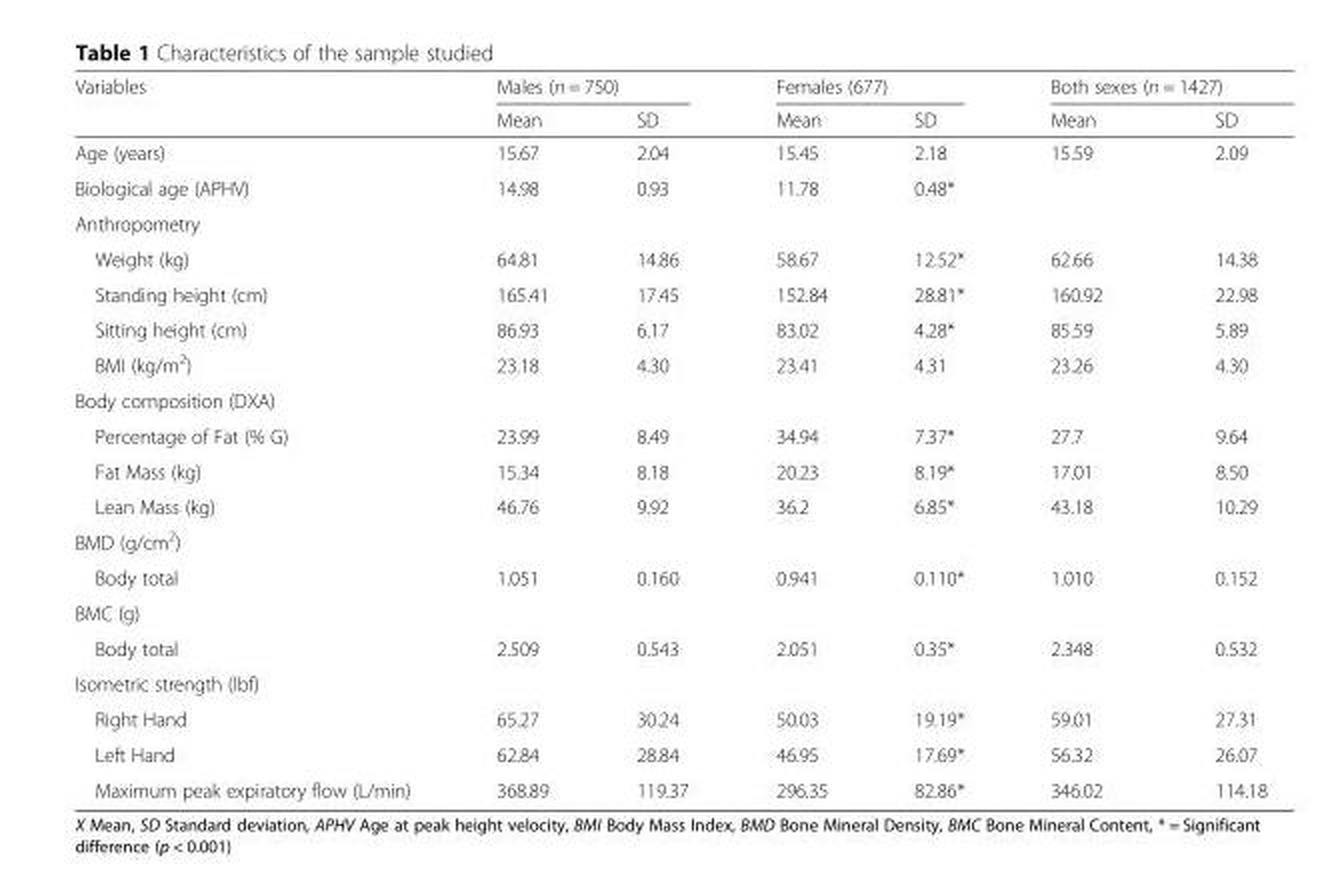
<table><thead><tr><td rowspan="2">Variables</td><td colspan="2">Males (n = 750)</td><td colspan="2">Females (677)</td><td colspan="2">Both sexes (n = 1427)</td></tr><tr><td>Mean</td><td>SD</td><td>Mean</td><td>SD</td><td>Mean</td><td>SD</td></tr></thead><tbody><tr><td>Age (years)</td><td>15.67</td><td>2.04</td><td>15.45</td><td>2.18</td><td>15.59</td><td>2.09</td></tr><tr><td>Biological age (APHV)</td><td>14.98</td><td>0.93</td><td>11.78</td><td>0.48*</td><td></td><td></td></tr><tr><td colspan="7">Anthropometry</td></tr><tr><td>Weight (kg)</td><td>64.81</td><td>14.86</td><td>58.67</td><td>12.52*</td><td>62.66</td><td>14.38</td></tr><tr><td>Standing height (cm)</td><td>165.41</td><td>17.45</td><td>152.84</td><td>28.81*</td><td>160.92</td><td>22.98</td></tr><tr><td>Sitting height (cm)</td><td>86.93</td><td>6.17</td><td>83.02</td><td>4.28*</td><td>85.59</td><td>5.89</td></tr><tr><td>BMI (kg/m<sup>2</sup>)</td><td>23.18</td><td>4.30</td><td>23.41</td><td>4.31</td><td>23.26</td><td>4.30</td></tr><tr><td colspan="7">Body composition (DXA)</td></tr><tr><td>Percentage of Fat (% G)</td><td>23.99</td><td>8.49</td><td>34.94</td><td>7.37*</td><td>27.7</td><td>9.64</td></tr><tr><td>Fat Mass (kg)</td><td>15.34</td><td>8.18</td><td>20.23</td><td>8.19*</td><td>17.01</td><td>8.50</td></tr><tr><td>Lean Mass (kg)</td><td>46.76</td><td>9.92</td><td>36.2</td><td>6.85*</td><td>43.18</td><td>10.29</td></tr><tr><td colspan="7">BMD (g/cm<sup>2</sup>)</td></tr><tr><td>Body total</td><td>1.051</td><td>0.160</td><td>0.941</td><td>0.110*</td><td>1.010</td><td>0.152</td></tr><tr><td colspan="7">BMC (g)</td></tr><tr><td>Body total</td><td>2.509</td><td>0.543</td><td>2.051</td><td>0.35*</td><td>2.348</td><td>0.532</td></tr><tr><td colspan="7">Isometric strength (lbf)</td></tr><tr><td>Right Hand</td><td>65.27</td><td>30.24</td><td>50.03</td><td>19.19*</td><td>59.01</td><td>27.31</td></tr><tr><td>Left Hand</td><td>62.84</td><td>28.84</td><td>46.95</td><td>17.69*</td><td>56.32</td><td>26.07</td></tr><tr><td>Maximum peak expiratory flow (L/min)</td><td>368.89</td><td>119.37</td><td>296.35</td><td>82.86*</td><td>346.02</td><td>114.18</td></tr></tbody></table>